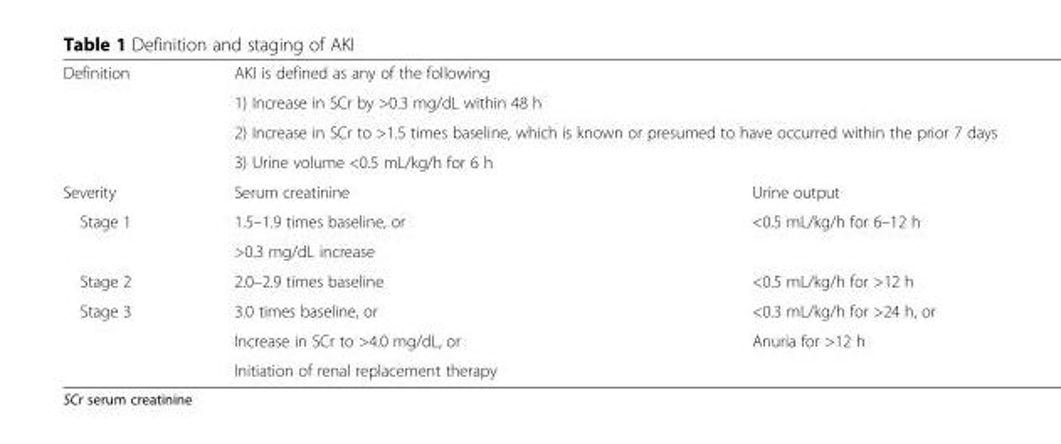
<table><tbody><tr><td rowspan="4">Definition</td><td colspan="2">AKI is defined as any of the following</td></tr><tr><td colspan="2">1) Increase in SCr by &gt;0.3 mg/dL within 48 h</td></tr><tr><td colspan="2">2) Increase in SCr to &gt;1.5 times baseline, which is known or presumed to have occurred within the prior 7 days</td></tr><tr><td colspan="2">3) Urine volume &lt;0.5 mL/kg/h for 6 h</td></tr><tr><td>Severity</td><td>Serum creatinine</td><td>Urine output</td></tr><tr><td rowspan="2">Stage 1</td><td>1.5–1.9 times baseline, or</td><td>&lt;0.5 mL/kg/h for 6–12 h</td></tr><tr><td>&gt;0.3 mg/dL increase</td><td></td></tr><tr><td>Stage 2</td><td>2.0–2.9 times baseline</td><td>&lt;0.5 mL/kg/h for &gt;12 h</td></tr><tr><td rowspan="3">Stage 3</td><td>3.0 times baseline, or</td><td>&lt;0.3 mL/kg/h for &gt;24 h, or</td></tr><tr><td>Increase in SCr to &gt;4.0 mg/dL, or</td><td>Anuria for &gt;12 h</td></tr><tr><td>Initiation of renal replacement therapy</td><td></td></tr></tbody></table>